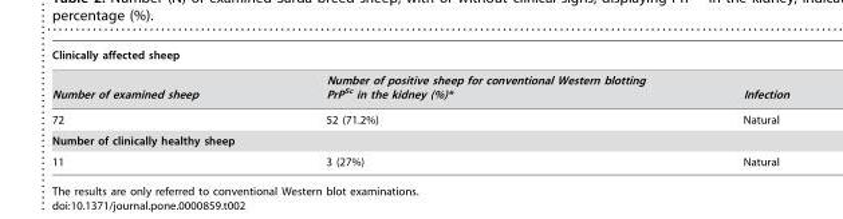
<table><thead><tr><td colspan="3">Clinically affected sheep</td></tr><tr><td>Number of examined sheep</td><td>Number of positive sheep for conventional Western blotting PrP<sup>Sc</sup> in the kidney (%)*</td><td>Infection</td></tr></thead><tbody><tr><td>72</td><td>52 (71.2%)</td><td>Natural</td></tr><tr><td colspan="3">Number of clinically healthy sheep</td></tr><tr><td>11</td><td>3 (27%)</td><td>Natural</td></tr></tbody></table>